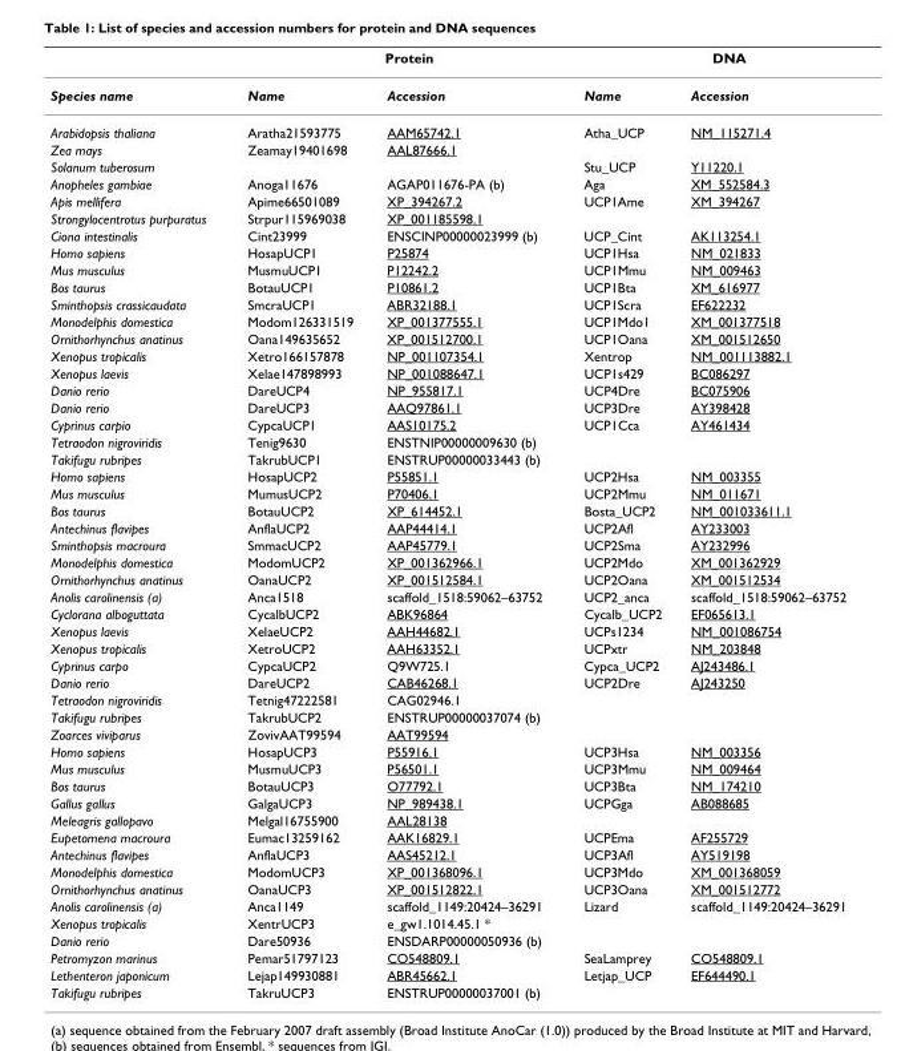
<table><thead><tr><td rowspan="2">Species name</td><td colspan="2">Protein</td><td colspan="2">DNA</td></tr><tr><td>Name</td><td>Accession</td><td>Name</td><td>Accession</td></tr></thead><tbody><tr><td>Arabidopsis thaliana</td><td>Aratha21593775</td><td>AAM65742.1</td><td>Atha_UCP</td><td>NM_115271.4</td></tr><tr><td>Zea mays</td><td>Zeamay19401698</td><td>AAL87666.1</td><td></td><td></td></tr><tr><td>Solanum tuberosum</td><td></td><td></td><td>Stu_UCP</td><td>Y11220.1</td></tr><tr><td>Anopheles gambiae</td><td>Anoga11676</td><td>AGAP011676-PA (b)</td><td>Aga</td><td>XM_552584.3</td></tr><tr><td>Apis mellifera</td><td>Apime66501089</td><td>XP_394267.2</td><td>UCP1Ame</td><td>XM_394267</td></tr><tr><td>Strongylocentrotus purpuratus</td><td>Strpur115969038</td><td>XP_001185598.1</td><td></td><td></td></tr><tr><td>Ciona intestinalis</td><td>Cint23999</td><td>ENSCINP00000023999 (b)</td><td>UCP_Cint</td><td>AK113254.1</td></tr><tr><td>Homo sapiens</td><td>HosapUCP1</td><td>P25874</td><td>UCP1Hsa</td><td>NM_021833</td></tr><tr><td>Mus musculus</td><td>MusmuUCP1</td><td>P12242.2</td><td>UCP1Mmu</td><td>NM_009463</td></tr><tr><td>Bos taurus</td><td>BotauUCP1</td><td>P10861.2</td><td>UCP1Bta</td><td>XM_616977</td></tr><tr><td>Sminthopsis crassicaudata</td><td>SmcraUCP1</td><td>ABR32188.1</td><td>UCP1Scra</td><td>EF622232</td></tr><tr><td>Monodelphis domestica</td><td>Modom126331519</td><td>XP_001377555.1</td><td>UCP1Mdo1</td><td>XM_001377518</td></tr><tr><td>Ornithorhynchus anatinus</td><td>Oana149635652</td><td>XP_001512700.1</td><td>UCP1Oana</td><td>XM_001512650</td></tr><tr><td>Xenopus tropicalis</td><td>Xetro166157878</td><td>NP_001107354.1</td><td>Xentrop</td><td>NM_001113882.1</td></tr><tr><td>Xenopus laevis</td><td>Xelae147898993</td><td>NP_001088647.1</td><td>UCP1s429</td><td>BC086297</td></tr><tr><td>Danio rerio</td><td>DareUCP4</td><td>NP_955817.1</td><td>UCP4Dre</td><td>BC075906</td></tr><tr><td>Danio rerio</td><td>DareUCP3</td><td>AAQ97861.1</td><td>UCP3Dre</td><td>AY398428</td></tr><tr><td>Cyprinus carpio</td><td>CypcaUCP1</td><td>AAS10175.2</td><td>UCP1Cca</td><td>AY461434</td></tr><tr><td>Tetraodon nigroviridis</td><td>Tenig9630</td><td>ENSTNIP00000009630 (b)</td><td></td><td></td></tr><tr><td>Takifugu rubripes</td><td>TakrubUCP1</td><td>ENSTRUP00000033443 (b)</td><td></td><td></td></tr><tr><td>Homo sapiens</td><td>HosapUCP2</td><td>P55851.1</td><td>UCP2Hsa</td><td>NM_003355</td></tr><tr><td>Mus musculus</td><td>MumusUCP2</td><td>P70406.1</td><td>UCP2Mmu</td><td>NM_011671</td></tr><tr><td>Bos taurus</td><td>BotauUCP2</td><td>XP_614452.1</td><td>Bosta_UCP2</td><td>NM_001033611.1</td></tr><tr><td>Antechinus flavipes</td><td>AnflaUCP2</td><td>AAP44414.1</td><td>UCP2Afl</td><td>AY233003</td></tr><tr><td>Sminthopsis macroura</td><td>SmmacUCP2</td><td>AAP45779.1</td><td>UCP2Sma</td><td>AY232996</td></tr><tr><td>Monodelphis domestica</td><td>ModomUCP2</td><td>XP_001362966.1</td><td>UCP2Mdo</td><td>XM_001362929</td></tr><tr><td>Ornithorhynchus anatinus</td><td>OanaUCP2</td><td>XP_001512584.1</td><td>UCP2Oana</td><td>XM_001512534</td></tr><tr><td>Anolis carolinensis (a)</td><td>Anca1518</td><td>scaffold_1518:59062–63752</td><td>UCP2_anca</td><td>scaffold_1518:59062–63752</td></tr><tr><td>Cyclorana alboguttata</td><td>CycalbUCP2</td><td>ABK96864</td><td>Cycalb_UCP2</td><td>EF065613.1</td></tr><tr><td>Xenopus laevis</td><td>XelaeUCP2</td><td>AAH44682.1</td><td>UCPs1234</td><td>NM_001086754</td></tr><tr><td>Xenopus tropicalis</td><td>XetroUCP2</td><td>AAH63352.1</td><td>UCPxtr</td><td>NM_203848</td></tr><tr><td>Cyprinus carpo</td><td>CypcaUCP2</td><td>Q9W725.1</td><td>Cypca_UCP2</td><td>AJ243486.1</td></tr><tr><td>Danio rerio</td><td>DareUCP2</td><td>CAB46268.1</td><td>UCP2Dre</td><td>AJ243250</td></tr><tr><td>Tetraodon nigroviridis</td><td>Tetnig47222581</td><td>CAG02946.1</td><td></td><td></td></tr><tr><td>Takifugu rubripes</td><td>TakrubUCP2</td><td>ENSTRUP00000037074 (b)</td><td></td><td></td></tr><tr><td>Zoarces viviparus</td><td>ZovivAAT99594</td><td>AAT99594</td><td></td><td></td></tr><tr><td>Homo sapiens</td><td>HosapUCP3</td><td>P55916.1</td><td>UCP3Hsa</td><td>NM_003356</td></tr><tr><td>Mus musculus</td><td>MusmuUCP3</td><td>P56501.1</td><td>UCP3Mmu</td><td>NM_009464</td></tr><tr><td>Bos taurus</td><td>BotauUCP3</td><td>O77792.1</td><td>UCP3Bta</td><td>NM_174210</td></tr><tr><td>Gallus gallus</td><td>GalgaUCP3</td><td>NP_989438.1</td><td>UCPGga</td><td>AB088685</td></tr><tr><td>Meleagris gallopavo</td><td>Melgal16755900</td><td>AAL28138</td><td></td><td></td></tr><tr><td>Eupetomena macroura</td><td>Eumac13259162</td><td>AAK16829.1</td><td>UCPEma</td><td>AF255729</td></tr><tr><td>Antechinus flavipes</td><td>AnflaUCP3</td><td>AAS45212.1</td><td>UCP3Afl</td><td>AY519198</td></tr><tr><td>Monodelphis domestica</td><td>ModomUCP3</td><td>XP_001368096.1</td><td>UCP3Mdo</td><td>XM_001368059</td></tr><tr><td>Ornithorhynchus anatinus</td><td>OanaUCP3</td><td>XP_001512822.1</td><td>UCP3Oana</td><td>XM_001512772</td></tr><tr><td>Anolis carolinensis (a)</td><td>Anca1149</td><td>scaffold_1149:20424–36291</td><td>Lizard</td><td>scaffold_1149:20424–36291</td></tr><tr><td>Xenopus tropicalis</td><td>XentrUCP3</td><td>e_gw1.1014.45.1 *</td><td></td><td></td></tr><tr><td>Danio rerio</td><td>Dare50936</td><td>ENSDARP00000050936 (b)</td><td></td><td></td></tr><tr><td>Petromyzon marinus</td><td>Pemar51797123</td><td>CO548809.1</td><td>SeaLamprey</td><td>CO548809.1</td></tr><tr><td>Lethenteron japonicum</td><td>Lejap149930881</td><td>ABR45662.1</td><td>Letjap_UCP</td><td>EF644490.1</td></tr><tr><td>Takifugu rubripes</td><td>TakruUCP3</td><td>ENSTRUP00000037001 (b)</td><td></td><td></td></tr></tbody></table>